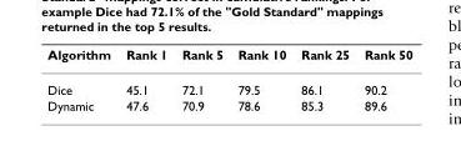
<table><thead><tr><td>Algorithm</td><td>Rank 1</td><td>Rank 5</td><td>Rank 10</td><td>Rank 25</td><td>Rank 50</td></tr></thead><tbody><tr><td>Dice</td><td>45.1</td><td>72.1</td><td>79.5</td><td>86.1</td><td>90.2</td></tr><tr><td>Dynamic</td><td>47.6</td><td>70.9</td><td>78.6</td><td>85.3</td><td>89.6</td></tr></tbody></table>